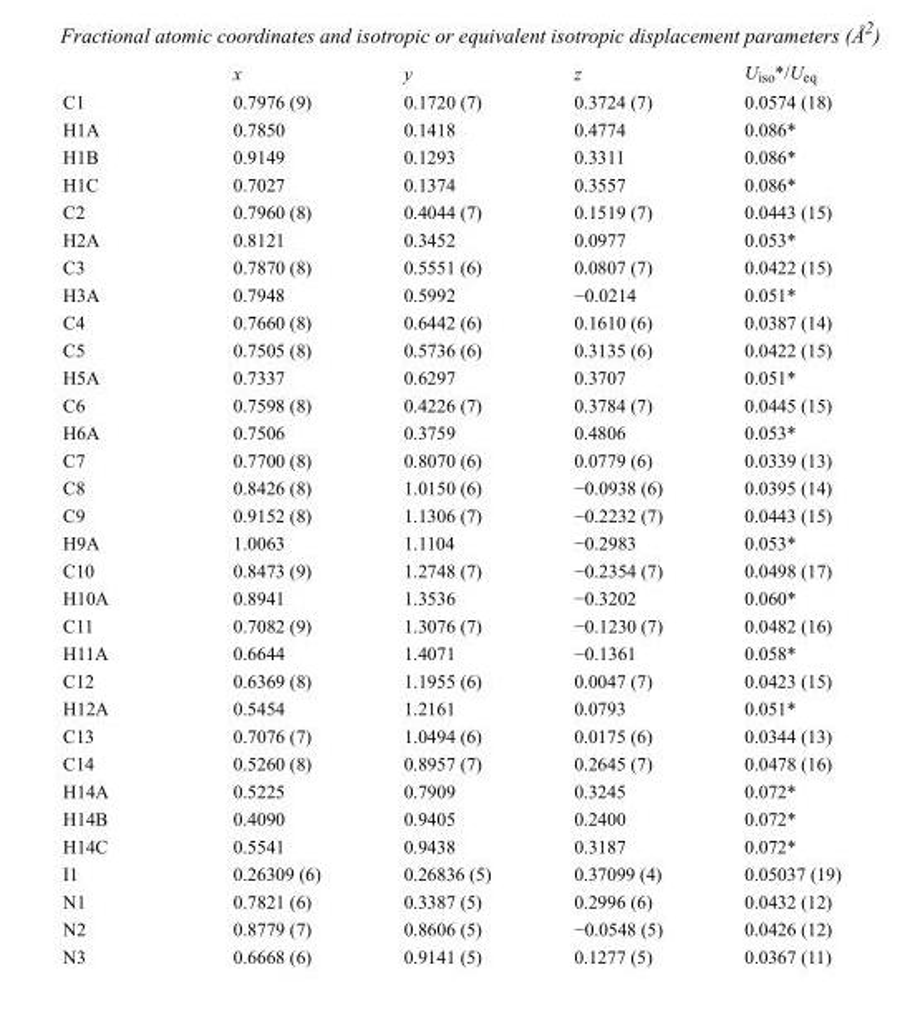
<table><thead><tr><td></td><td>x</td><td>y</td><td>z</td><td>U<sub>iso</sub>*/U<sub>eq</sub></td></tr></thead><tbody><tr><td>C1</td><td>0.7976 (9)</td><td>0.1720 (7)</td><td>0.3724 (7)</td><td>0.0574 (18)</td></tr><tr><td>H1A</td><td>0.7850</td><td>0.1418</td><td>0.4774</td><td>0.086*</td></tr><tr><td>H1B</td><td>0.9149</td><td>0.1293</td><td>0.3311</td><td>0.086*</td></tr><tr><td>H1C</td><td>0.7027</td><td>0.1374</td><td>0.3557</td><td>0.086*</td></tr><tr><td>C2</td><td>0.7960 (8)</td><td>0.4044 (7)</td><td>0.1519 (7)</td><td>0.0443 (15)</td></tr><tr><td>H2A</td><td>0.8121</td><td>0.3452</td><td>0.0977</td><td>0.053*</td></tr><tr><td>C3</td><td>0.7870 (8)</td><td>0.5551 (6)</td><td>0.0807 (7)</td><td>0.0422 (15)</td></tr><tr><td>H3A</td><td>0.7948</td><td>0.5992</td><td>−0.0214</td><td>0.051*</td></tr><tr><td>C4</td><td>0.7660 (8)</td><td>0.6442 (6)</td><td>0.1610 (6)</td><td>0.0387 (14)</td></tr><tr><td>C5</td><td>0.7505 (8)</td><td>0.5736 (6)</td><td>0.3135 (6)</td><td>0.0422 (15)</td></tr><tr><td>H5A</td><td>0.7337</td><td>0.6297</td><td>0.3707</td><td>0.051*</td></tr><tr><td>C6</td><td>0.7598 (8)</td><td>0.4226 (7)</td><td>0.3784 (7)</td><td>0.0445 (15)</td></tr><tr><td>H6A</td><td>0.7506</td><td>0.3759</td><td>0.4806</td><td>0.053*</td></tr><tr><td>C7</td><td>0.7700 (8)</td><td>0.8070 (6)</td><td>0.0779 (6)</td><td>0.0339 (13)</td></tr><tr><td>C8</td><td>0.8426 (8)</td><td>1.0150 (6)</td><td>−0.0938 (6)</td><td>0.0395 (14)</td></tr><tr><td>C9</td><td>0.9152 (8)</td><td>1.1306 (7)</td><td>−0.2232 (7)</td><td>0.0443 (15)</td></tr><tr><td>H9A</td><td>1.0063</td><td>1.1104</td><td>−0.2983</td><td>0.053*</td></tr><tr><td>C10</td><td>0.8473 (9)</td><td>1.2748 (7)</td><td>−0.2354 (7)</td><td>0.0498 (17)</td></tr><tr><td>H10A</td><td>0.8941</td><td>1.3536</td><td>−0.3202</td><td>0.060*</td></tr><tr><td>C11</td><td>0.7082 (9)</td><td>1.3076 (7)</td><td>−0.1230 (7)</td><td>0.0482 (16)</td></tr><tr><td>H11A</td><td>0.6644</td><td>1.4071</td><td>−0.1361</td><td>0.058*</td></tr><tr><td>C12</td><td>0.6369 (8)</td><td>1.1955 (6)</td><td>0.0047 (7)</td><td>0.0423 (15)</td></tr><tr><td>H12A</td><td>0.5454</td><td>1.2161</td><td>0.0793</td><td>0.051*</td></tr><tr><td>C13</td><td>0.7076 (7)</td><td>1.0494 (6)</td><td>0.0175 (6)</td><td>0.0344 (13)</td></tr><tr><td>C14</td><td>0.5260 (8)</td><td>0.8957 (7)</td><td>0.2645 (7)</td><td>0.0478 (16)</td></tr><tr><td>H14A</td><td>0.5225</td><td>0.7909</td><td>0.3245</td><td>0.072*</td></tr><tr><td>H14B</td><td>0.4090</td><td>0.9405</td><td>0.2400</td><td>0.072*</td></tr><tr><td>H14C</td><td>0.5541</td><td>0.9438</td><td>0.3187</td><td>0.072*</td></tr><tr><td>I1</td><td>0.26309 (6)</td><td>0.26836 (5)</td><td>0.37099 (4)</td><td>0.05037 (19)</td></tr><tr><td>N1</td><td>0.7821 (6)</td><td>0.3387 (5)</td><td>0.2996 (6)</td><td>0.0432 (12)</td></tr><tr><td>N2</td><td>0.8779 (7)</td><td>0.8606 (5)</td><td>−0.0548 (5)</td><td>0.0426 (12)</td></tr><tr><td>N3</td><td>0.6668 (6)</td><td>0.9141 (5)</td><td>0.1277 (5)</td><td>0.0367 (11)</td></tr></tbody></table>